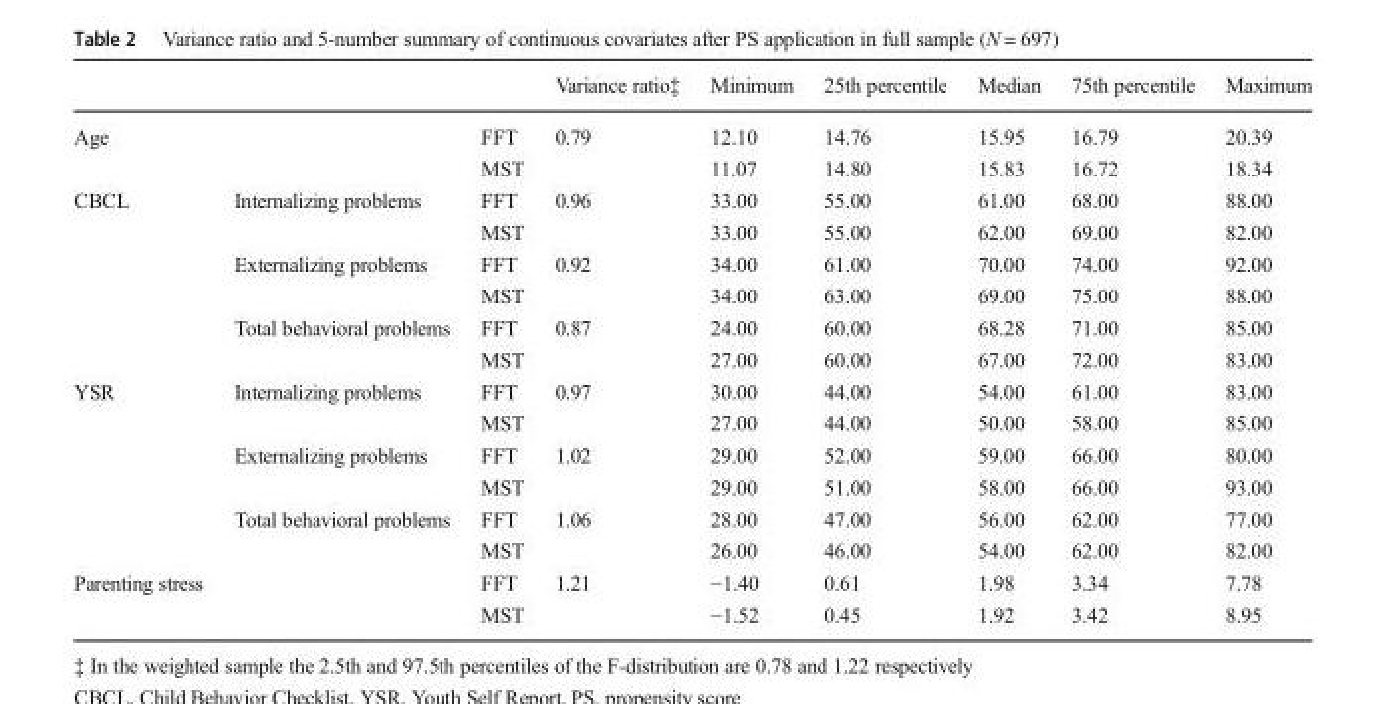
<table><thead><tr><td></td><td></td><td></td><td>Variance ratio‡</td><td>Minimum</td><td>25th percentile</td><td>Median</td><td>75th percentile</td><td>Maximum</td></tr></thead><tbody><tr><td rowspan="2">Age</td><td rowspan="2"></td><td>FFT</td><td>0.79</td><td>12.10</td><td>14.76</td><td>15.95</td><td>16.79</td><td>20.39</td></tr><tr><td>MST</td><td></td><td>11.07</td><td>14.80</td><td>15.83</td><td>16.72</td><td>18.34</td></tr><tr><td rowspan="6">CBCL</td><td rowspan="2">Internalizing problems</td><td>FFT</td><td>0.96</td><td>33.00</td><td>55.00</td><td>61.00</td><td>68.00</td><td>88.00</td></tr><tr><td>MST</td><td></td><td>33.00</td><td>55.00</td><td>62.00</td><td>69.00</td><td>82.00</td></tr><tr><td rowspan="2">Externalizing problems</td><td>FFT</td><td>0.92</td><td>34.00</td><td>61.00</td><td>70.00</td><td>74.00</td><td>92.00</td></tr><tr><td>MST</td><td></td><td>34.00</td><td>63.00</td><td>69.00</td><td>75.00</td><td>88.00</td></tr><tr><td rowspan="2">Total behavioral problems</td><td>FFT</td><td>0.87</td><td>24.00</td><td>60.00</td><td>68.28</td><td>71.00</td><td>85.00</td></tr><tr><td>MST</td><td></td><td>27.00</td><td>60.00</td><td>67.00</td><td>72.00</td><td>83.00</td></tr><tr><td rowspan="6">YSR</td><td rowspan="2">Internalizing problems</td><td>FFT</td><td>0.97</td><td>30.00</td><td>44.00</td><td>54.00</td><td>61.00</td><td>83.00</td></tr><tr><td>MST</td><td></td><td>27.00</td><td>44.00</td><td>50.00</td><td>58.00</td><td>85.00</td></tr><tr><td rowspan="2">Externalizing problems</td><td>FFT</td><td>1.02</td><td>29.00</td><td>52.00</td><td>59.00</td><td>66.00</td><td>80.00</td></tr><tr><td>MST</td><td></td><td>29.00</td><td>51.00</td><td>58.00</td><td>66.00</td><td>93.00</td></tr><tr><td rowspan="2">Total behavioral problems</td><td>FFT</td><td>1.06</td><td>28.00</td><td>47.00</td><td>56.00</td><td>62.00</td><td>77.00</td></tr><tr><td>MST</td><td></td><td>26.00</td><td>46.00</td><td>54.00</td><td>62.00</td><td>82.00</td></tr><tr><td rowspan="2">Parenting stress</td><td rowspan="2"></td><td>FFT</td><td>1.21</td><td>−1.40</td><td>0.61</td><td>1.98</td><td>3.34</td><td>7.78</td></tr><tr><td>MST</td><td></td><td>−1.52</td><td>0.45</td><td>1.92</td><td>3.42</td><td>8.95</td></tr></tbody></table>